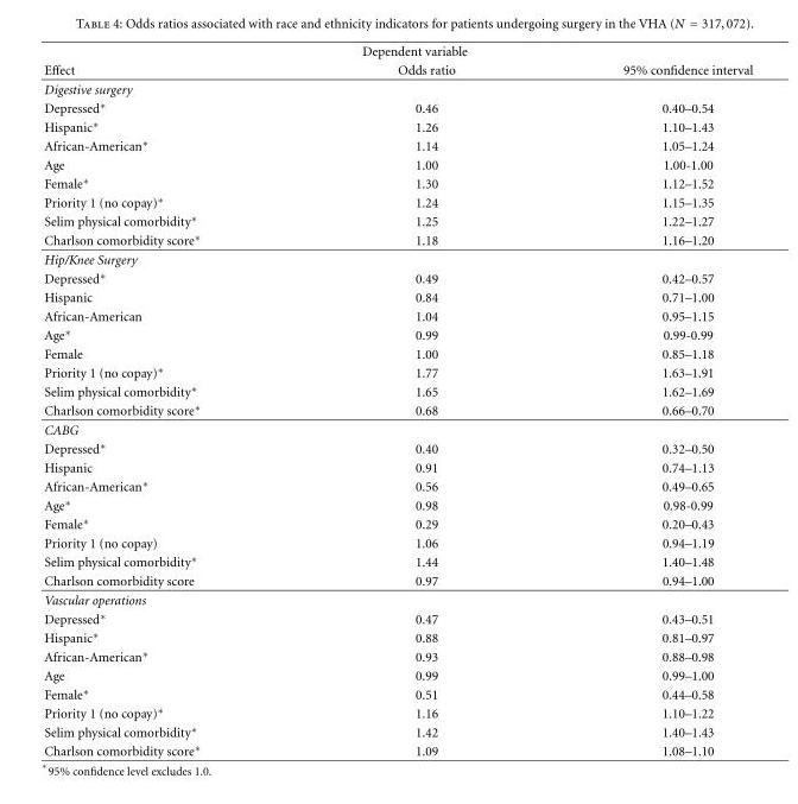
<table><thead><tr><td colspan="3">Dependent variable</td></tr><tr><td>Effect</td><td>Odds ratio</td><td>95% confidence interval</td></tr></thead><tbody><tr><td colspan="3">Digestive surgery</td></tr><tr><td>Depressed∗</td><td>0.46</td><td>0.40–0.54</td></tr><tr><td>Hispanic∗</td><td>1.26</td><td>1.10–1.43</td></tr><tr><td>African-American∗</td><td>1.14</td><td>1.05–1.24</td></tr><tr><td>Age</td><td>1.00</td><td>1.00-1.00</td></tr><tr><td>Female∗</td><td>1.30</td><td>1.12–1.52</td></tr><tr><td>Priority 1 (no copay)∗</td><td>1.24</td><td>1.15–1.35</td></tr><tr><td>Selim physical comorbidity∗</td><td>1.25</td><td>1.22–1.27</td></tr><tr><td>Charlson comorbidity score∗</td><td>1.18</td><td>1.16–1.20</td></tr><tr><td colspan="3">Hip/Knee Surgery</td></tr><tr><td>Depressed∗</td><td>0.49</td><td>0.42–0.57</td></tr><tr><td>Hispanic</td><td>0.84</td><td>0.71–1.00</td></tr><tr><td>African-American</td><td>1.04</td><td>0.95–1.15</td></tr><tr><td>Age∗</td><td>0.99</td><td>0.99-0.99</td></tr><tr><td>Female</td><td>1.00</td><td>0.85–1.18</td></tr><tr><td>Priority 1 (no copay)∗</td><td>1.77</td><td>1.63–1.91</td></tr><tr><td>Selim physical comorbidity∗</td><td>1.65</td><td>1.62–1.69</td></tr><tr><td>Charlson comorbidity score∗</td><td>0.68</td><td>0.66–0.70</td></tr><tr><td colspan="3">CABG</td></tr><tr><td>Depressed∗</td><td>0.40</td><td>0.32–0.50</td></tr><tr><td>Hispanic</td><td>0.91</td><td>0.74–1.13</td></tr><tr><td>African-American∗</td><td>0.56</td><td>0.49–0.65</td></tr><tr><td>Age∗</td><td>0.98</td><td>0.98-0.99</td></tr><tr><td>Female∗</td><td>0.29</td><td>0.20–0.43</td></tr><tr><td>Priority 1 (no copay)</td><td>1.06</td><td>0.94–1.19</td></tr><tr><td>Selim physical comorbidity∗</td><td>1.44</td><td>1.40–1.48</td></tr><tr><td>Charlson comorbidity score</td><td>0.97</td><td>0.94–1.00</td></tr><tr><td colspan="3">Vascular operations</td></tr><tr><td>Depressed∗</td><td>0.47</td><td>0.43–0.51</td></tr><tr><td>Hispanic∗</td><td>0.88</td><td>0.81–0.97</td></tr><tr><td>African-American∗</td><td>0.93</td><td>0.88–0.98</td></tr><tr><td>Age</td><td>0.99</td><td>0.99–1.00</td></tr><tr><td>Female∗</td><td>0.51</td><td>0.44–0.58</td></tr><tr><td>Priority 1 (no copay)∗</td><td>1.16</td><td>1.10–1.22</td></tr><tr><td>Selim physical comorbidity∗</td><td>1.42</td><td>1.40–1.43</td></tr><tr><td>Charlson comorbidity score∗</td><td>1.09</td><td>1.08–1.10</td></tr></tbody></table>